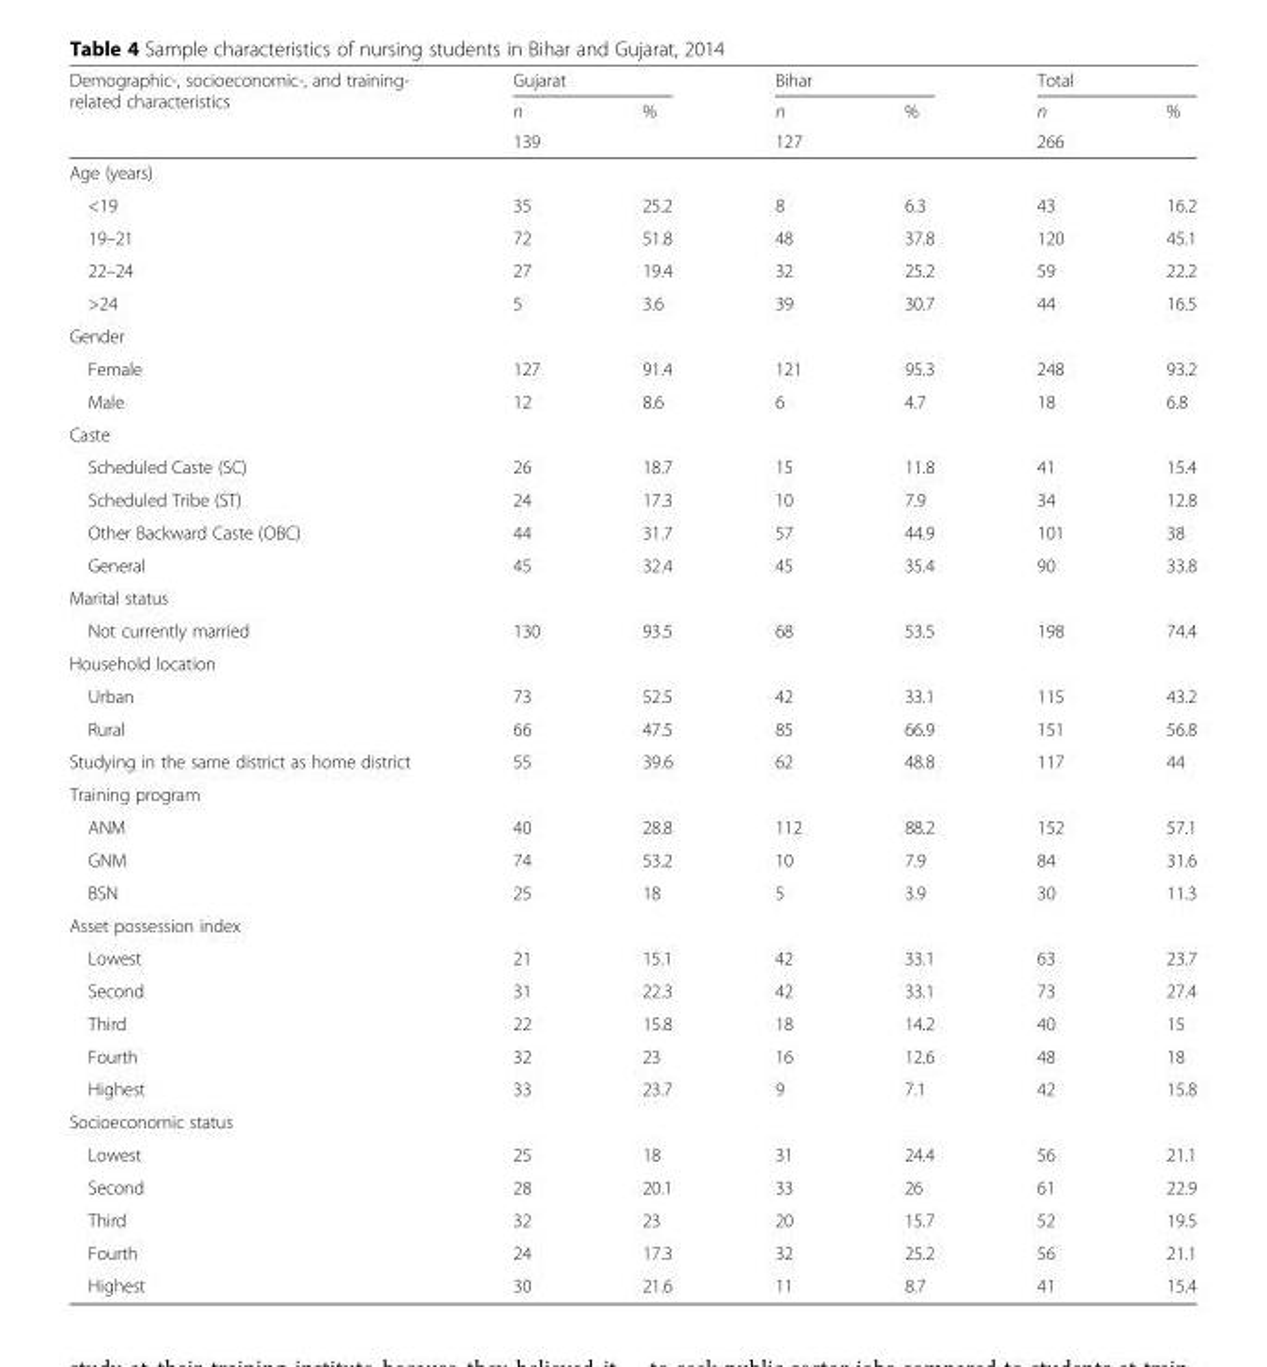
<table><thead><tr><td rowspan="3">Demographic-, socioeconomic-, and training- related characteristics</td><td colspan="2">Gujarat</td><td colspan="2">Bihar</td><td colspan="2">Total</td></tr><tr><td rowspan="2">n 139</td><td rowspan="2">%</td><td rowspan="2">n 127</td><td rowspan="2">%</td><td rowspan="2">n 266</td><td rowspan="2">%</td></tr><tr></tr></thead><tbody><tr><td colspan="7">Age (years)</td></tr><tr><td>&lt;19</td><td>35</td><td>25.2</td><td>8</td><td>6.3</td><td>43</td><td>16.2</td></tr><tr><td>19–21</td><td>72</td><td>51.8</td><td>48</td><td>37.8</td><td>120</td><td>45.1</td></tr><tr><td>22–24</td><td>27</td><td>19.4</td><td>32</td><td>25.2</td><td>59</td><td>22.2</td></tr><tr><td>&gt;24</td><td>5</td><td>3.6</td><td>39</td><td>30.7</td><td>44</td><td>16.5</td></tr><tr><td colspan="7">Gender</td></tr><tr><td>Female</td><td>127</td><td>91.4</td><td>121</td><td>95.3</td><td>248</td><td>93.2</td></tr><tr><td>Male</td><td>12</td><td>8.6</td><td>6</td><td>4.7</td><td>18</td><td>6.8</td></tr><tr><td colspan="7">Caste</td></tr><tr><td>Scheduled Caste (SC)</td><td>26</td><td>18.7</td><td>15</td><td>11.8</td><td>41</td><td>15.4</td></tr><tr><td>Scheduled Tribe (ST)</td><td>24</td><td>17.3</td><td>10</td><td>7.9</td><td>34</td><td>12.8</td></tr><tr><td>Other Backward Caste (OBC)</td><td>44</td><td>31.7</td><td>57</td><td>44.9</td><td>101</td><td>38</td></tr><tr><td>General</td><td>45</td><td>32.4</td><td>45</td><td>35.4</td><td>90</td><td>33.8</td></tr><tr><td colspan="7">Marital status</td></tr><tr><td>Not currently married</td><td>130</td><td>93.5</td><td>68</td><td>53.5</td><td>198</td><td>74.4</td></tr><tr><td colspan="7">Household location</td></tr><tr><td>Urban</td><td>73</td><td>52.5</td><td>42</td><td>33.1</td><td>115</td><td>43.2</td></tr><tr><td>Rural</td><td>66</td><td>47.5</td><td>85</td><td>66.9</td><td>151</td><td>56.8</td></tr><tr><td>Studying in the same district as home district</td><td>55</td><td>39.6</td><td>62</td><td>48.8</td><td>117</td><td>44</td></tr><tr><td colspan="7">Training program</td></tr><tr><td>ANM</td><td>40</td><td>28.8</td><td>112</td><td>88.2</td><td>152</td><td>57.1</td></tr><tr><td>GNM</td><td>74</td><td>53.2</td><td>10</td><td>7.9</td><td>84</td><td>31.6</td></tr><tr><td>BSN</td><td>25</td><td>18</td><td>5</td><td>3.9</td><td>30</td><td>11.3</td></tr><tr><td colspan="7">Asset possession index</td></tr><tr><td>Lowest</td><td>21</td><td>15.1</td><td>42</td><td>33.1</td><td>63</td><td>23.7</td></tr><tr><td>Second</td><td>31</td><td>22.3</td><td>42</td><td>33.1</td><td>73</td><td>27.4</td></tr><tr><td>Third</td><td>22</td><td>15.8</td><td>18</td><td>14.2</td><td>40</td><td>15</td></tr><tr><td>Fourth</td><td>32</td><td>23</td><td>16</td><td>12.6</td><td>48</td><td>18</td></tr><tr><td>Highest</td><td>33</td><td>23.7</td><td>9</td><td>7.1</td><td>42</td><td>15.8</td></tr><tr><td colspan="7">Socioeconomic status</td></tr><tr><td>Lowest</td><td>25</td><td>18</td><td>31</td><td>24.4</td><td>56</td><td>21.1</td></tr><tr><td>Second</td><td>28</td><td>20.1</td><td>33</td><td>26</td><td>61</td><td>22.9</td></tr><tr><td>Third</td><td>32</td><td>23</td><td>20</td><td>15.7</td><td>52</td><td>19.5</td></tr><tr><td>Fourth</td><td>24</td><td>17.3</td><td>32</td><td>25.2</td><td>56</td><td>21.1</td></tr><tr><td>Highest</td><td>30</td><td>21.6</td><td>11</td><td>8.7</td><td>41</td><td>15.4</td></tr></tbody></table>